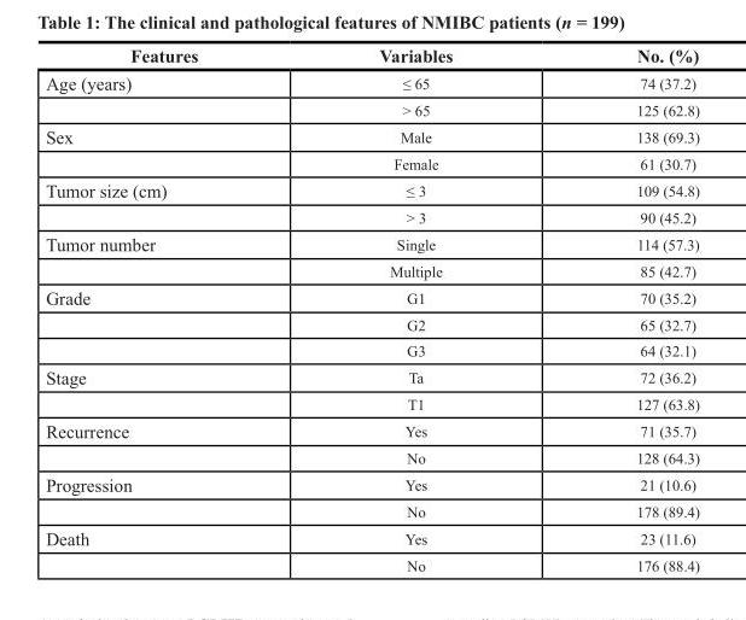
<table><thead><tr><td>Features</td><td>Variables</td><td>No. (%)</td></tr></thead><tbody><tr><td rowspan="2">Age (years)</td><td>≤ 65</td><td>74 (37.2)</td></tr><tr><td>&gt; 65</td><td>125 (62.8)</td></tr><tr><td rowspan="2">Sex</td><td>Male</td><td>138 (69.3)</td></tr><tr><td>Female</td><td>61 (30.7)</td></tr><tr><td rowspan="2">Tumor size (cm)</td><td>≤ 3</td><td>109 (54.8)</td></tr><tr><td>&gt; 3</td><td>90 (45.2)</td></tr><tr><td rowspan="2">Tumor number</td><td>Single</td><td>114 (57.3)</td></tr><tr><td>Multiple</td><td>85 (42.7)</td></tr><tr><td rowspan="3">Grade</td><td>G1</td><td>70 (35.2)</td></tr><tr><td>G2</td><td>65 (32.7)</td></tr><tr><td>G3</td><td>64 (32.1)</td></tr><tr><td rowspan="2">Stage</td><td>Ta</td><td>72 (36.2)</td></tr><tr><td>T1</td><td>127 (63.8)</td></tr><tr><td rowspan="2">Recurrence</td><td>Yes</td><td>71 (35.7)</td></tr><tr><td>No</td><td>128 (64.3)</td></tr><tr><td rowspan="2">Progression</td><td>Yes</td><td>21 (10.6)</td></tr><tr><td>No</td><td>178 (89.4)</td></tr><tr><td rowspan="2">Death</td><td>Yes</td><td>23 (11.6)</td></tr><tr><td>No</td><td>176 (88.4)</td></tr></tbody></table>